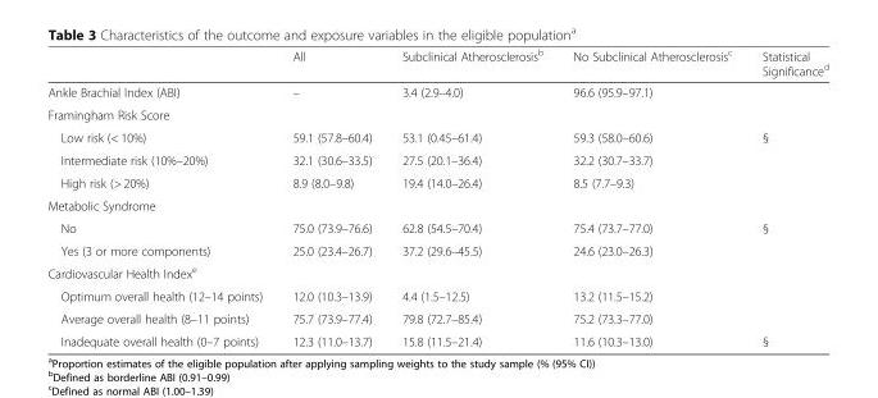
<table><thead><tr><td></td><td>All</td><td>Subclinical Atherosclerosis<sup>b</sup></td><td>No Subclinical Atherosclerosis<sup>c</sup></td><td>Statistical Significance<sup>d</sup></td></tr></thead><tbody><tr><td>Ankle Brachial Index (ABI)</td><td>–</td><td>3.4 (2.9–4.0)</td><td>96.6 (95.9–97.1)</td><td></td></tr><tr><td colspan="5">Framingham Risk Score</td></tr><tr><td>Low risk (&lt; 10%)</td><td>59.1 (57.8–60.4)</td><td>53.1 (0.45–61.4)</td><td>59.3 (58.0–60.6)</td><td>§</td></tr><tr><td>Intermediate risk (10%–20%)</td><td>32.1 (30.6–33.5)</td><td>27.5 (20.1–36.4)</td><td>32.2 (30.7–33.7)</td><td></td></tr><tr><td>High risk (&gt; 20%)</td><td>8.9 (8.0–9.8)</td><td>19.4 (14.0–26.4)</td><td>8.5 (7.7–9.3)</td><td></td></tr><tr><td colspan="5">Metabolic Syndrome</td></tr><tr><td>No</td><td>75.0 (73.9–76.6)</td><td>62.8 (54.5–70.4)</td><td>75.4 (73.7–77.0)</td><td>§</td></tr><tr><td>Yes (3 or more components)</td><td>25.0 (23.4–26.7)</td><td>37.2 (29.6–45.5)</td><td>24.6 (23.0–26.3)</td><td></td></tr><tr><td colspan="5">Cardiovascular Health Index<sup>e</sup></td></tr><tr><td>Optimum overall health (12–14 points)</td><td>12.0 (10.3–13.9)</td><td>4.4 (1.5–12.5)</td><td>13.2 (11.5–15.2)</td><td></td></tr><tr><td>Average overall health (8–11 points)</td><td>75.7 (73.9–77.4)</td><td>79.8 (72.7–85.4)</td><td>75.2 (73.3–77.0)</td><td></td></tr><tr><td>Inadequate overall health (0–7 points)</td><td>12.3 (11.0–13.7)</td><td>15.8 (11.5–21.4)</td><td>11.6 (10.3–13.0)</td><td>§</td></tr></tbody></table>